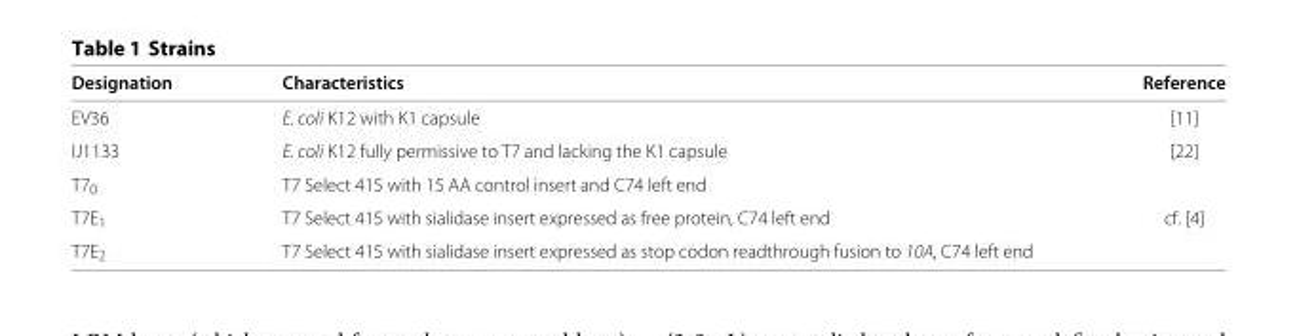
<table><thead><tr><td>Designation</td><td>Characteristics</td><td>Reference</td></tr></thead><tbody><tr><td>EV36</td><td>E. coli K12 with K1 capsule</td><td>[11]</td></tr><tr><td>IJ1133</td><td>E. coli K12 fully permissive to T7 and lacking the K1 capsule</td><td>[22]</td></tr><tr><td>T7<sub>0</sub></td><td>T7 Select 415 with 15 AA control insert and C74 left end</td><td></td></tr><tr><td>T7E<sub>1</sub></td><td>T7 Select 415 with sialidase insert expressed as free protein, C74 left end</td><td>cf. [4]</td></tr><tr><td>T7E<sub>2</sub></td><td>T7 Select 415 with sialidase insert expressed as stop codon readthrough fusion to 10A, C74 left end</td><td></td></tr></tbody></table>